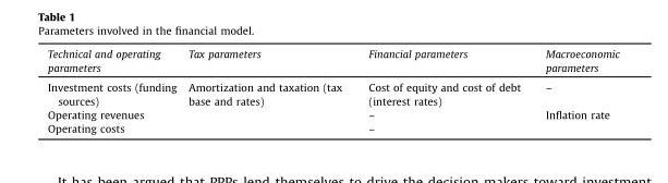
<table><thead><tr><td>Technical and operating parameters</td><td>Tax parameters</td><td>Financial parameters</td><td>Macroeconomic parameters</td></tr></thead><tbody><tr><td>Investment costs (funding sources)</td><td>Amortization and taxation (tax base and rates)</td><td>Cost of equity and cost of debt (interest rates)</td><td>–</td></tr><tr><td>Operating revenues</td><td></td><td>–</td><td>Inflation rate</td></tr><tr><td>Operating costs</td><td></td><td>–</td><td></td></tr></tbody></table>